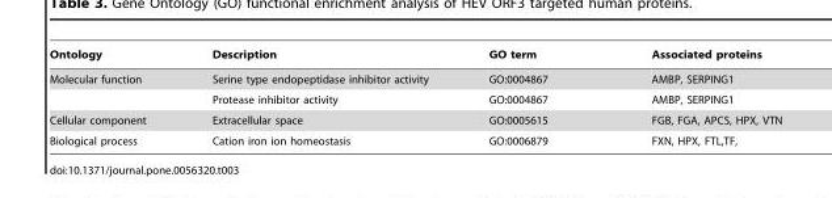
<table><thead><tr><td>Ontology</td><td>Description</td><td>GO term</td><td>Associated proteins</td></tr></thead><tbody><tr><td rowspan="2">Molecular function</td><td>Serine type endopeptidase inhibitor activity</td><td>GO:0004867</td><td>AMBP, SERPING1</td></tr><tr><td>Protease inhibitor activity</td><td>GO:0004867</td><td>AMBP, SERPING1</td></tr><tr><td>Cellular component</td><td>Extracellular space</td><td>GO:0005615</td><td>FGB, FGA, APCS, HPX, VTN</td></tr><tr><td>Biological process</td><td>Cation iron ion homeostasis</td><td>GO:0006879</td><td>FXN, HPX, FTL,TF,</td></tr></tbody></table>